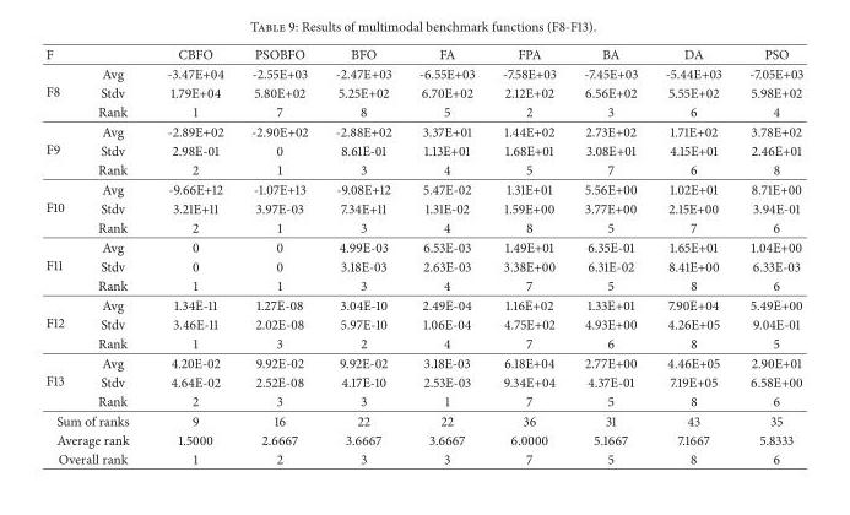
<table><thead><tr><td>F</td><td></td><td>CBFO</td><td>PSOBFO</td><td>BFO</td><td>FA</td><td>FPA</td><td>BA</td><td>DA</td><td>PSO</td></tr></thead><tbody><tr><td rowspan="3">F8</td><td>Avg</td><td>-3.47E+04</td><td>-2.55E+03</td><td>-2.47E+03</td><td>-6.55E+03</td><td>-7.58E+03</td><td>-7.45E+03</td><td>-5.44E+03</td><td>-7.05E+03</td></tr><tr><td>Stdv</td><td>1.79E+04</td><td>5.80E+02</td><td>5.25E+02</td><td>6.70E+02</td><td>2.12E+02</td><td>6.56E+02</td><td>5.55E+02</td><td>5.98E+02</td></tr><tr><td>Rank</td><td>1</td><td>7</td><td>8</td><td>5</td><td>2</td><td>3</td><td>6</td><td>4</td></tr><tr><td rowspan="3">F9</td><td>Avg</td><td>-2.89E+02</td><td>-2.90E+02</td><td>-2.88E+02</td><td>3.37E+01</td><td>1.44E+02</td><td>2.73E+02</td><td>1.71E+02</td><td>3.78E+02</td></tr><tr><td>Stdv</td><td>2.98E-01</td><td>0</td><td>8.61E-01</td><td>1.13E+01</td><td>1.68E+01</td><td>3.08E+01</td><td>4.15E+01</td><td>2.46E+01</td></tr><tr><td>Rank</td><td>2</td><td>1</td><td>3</td><td>4</td><td>5</td><td>7</td><td>6</td><td>8</td></tr><tr><td rowspan="3">F10</td><td>Avg</td><td>-9.66E+12</td><td>-1.07E+13</td><td>-9.08E+12</td><td>5.47E-02</td><td>1.31E+01</td><td>5.56E+00</td><td>1.02E+01</td><td>8.71E+00</td></tr><tr><td>Stdv</td><td>3.21E+11</td><td>3.97E-03</td><td>7.34E+11</td><td>1.31E-02</td><td>1.59E+00</td><td>3.77E+00</td><td>2.15E+00</td><td>3.94E-01</td></tr><tr><td>Rank</td><td>2</td><td>1</td><td>3</td><td>4</td><td>8</td><td>5</td><td>7</td><td>6</td></tr><tr><td rowspan="3">F11</td><td>Avg</td><td>0</td><td>0</td><td>4.99E-03</td><td>6.53E-03</td><td>1.49E+01</td><td>6.35E-01</td><td>1.65E+01</td><td>1.04E+00</td></tr><tr><td>Stdv</td><td>0</td><td>0</td><td>3.18E-03</td><td>2.63E-03</td><td>3.38E+00</td><td>6.31E-02</td><td>8.41E+00</td><td>6.33E-03</td></tr><tr><td>Rank</td><td>1</td><td>1</td><td>3</td><td>4</td><td>7</td><td>5</td><td>8</td><td>6</td></tr><tr><td rowspan="3">F12</td><td>Avg</td><td>1.34E-11</td><td>1.27E-08</td><td>3.04E-10</td><td>2.49E-04</td><td>1.16E+02</td><td>1.33E+01</td><td>7.90E+04</td><td>5.49E+00</td></tr><tr><td>Stdv</td><td>3.46E-11</td><td>2.02E-08</td><td>5.97E-10</td><td>1.06E-04</td><td>4.75E+02</td><td>4.93E+00</td><td>4.26E+05</td><td>9.04E-01</td></tr><tr><td>Rank</td><td>1</td><td>3</td><td>2</td><td>4</td><td>7</td><td>6</td><td>8</td><td>5</td></tr><tr><td rowspan="3">F13</td><td>Avg</td><td>4.20E-02</td><td>9.92E-02</td><td>9.92E-02</td><td>3.18E-03</td><td>6.18E+04</td><td>2.77E+00</td><td>4.46E+05</td><td>2.90E+01</td></tr><tr><td>Stdv</td><td>4.64E-02</td><td>2.52E-08</td><td>4.17E-10</td><td>2.53E-03</td><td>9.34E+04</td><td>4.37E-01</td><td>7.19E+05</td><td>6.58E+00</td></tr><tr><td>Rank</td><td>2</td><td>3</td><td>3</td><td>1</td><td>7</td><td>5</td><td>8</td><td>6</td></tr><tr><td colspan="2">Sum of ranks</td><td>9</td><td>16</td><td>22</td><td>22</td><td>36</td><td>31</td><td>43</td><td>35</td></tr><tr><td colspan="2">Average rank</td><td>1.5000</td><td>2.6667</td><td>3.6667</td><td>3.6667</td><td>6.0000</td><td>5.1667</td><td>7.1667</td><td>5.8333</td></tr><tr><td colspan="2">Overall rank</td><td>1</td><td>2</td><td>3</td><td>3</td><td>7</td><td>5</td><td>8</td><td>6</td></tr></tbody></table>